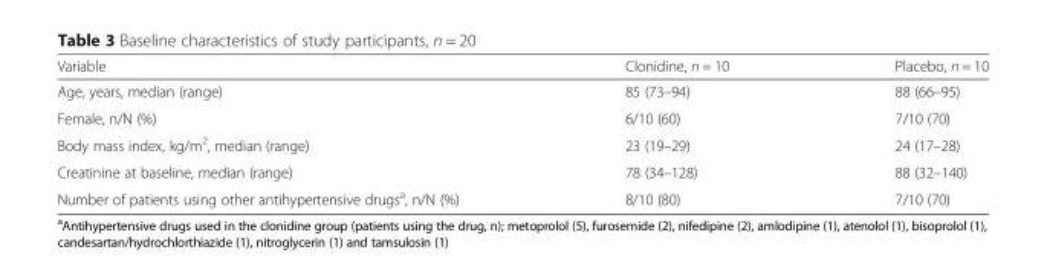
<table><thead><tr><td>Variable</td><td>Clonidine, n = 10</td><td>Placebo, n = 10</td></tr></thead><tbody><tr><td>Age, years, median (range)</td><td>85 (73–94)</td><td>88 (66–95)</td></tr><tr><td>Female, n/N (%)</td><td>6/10 (60)</td><td>7/10 (70)</td></tr><tr><td>Body mass index, kg/m<sup>2</sup>, median (range)</td><td>23 (19–29)</td><td>24 (17–28)</td></tr><tr><td>Creatinine at baseline, median (range)</td><td>78 (34–128)</td><td>88 (32–140)</td></tr><tr><td>Number of patients using other antihypertensive drugs<sup>a</sup>, n/N (%)</td><td>8/10 (80)</td><td>7/10 (70)</td></tr></tbody></table>